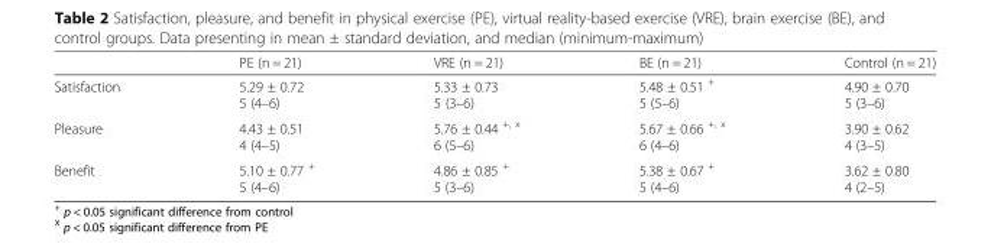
<table><thead><tr><td></td><td>PE (n = 21)</td><td>VRE (n = 21)</td><td>BE (n = 21)</td><td>Control (n = 21)</td></tr></thead><tbody><tr><td>Satisfaction</td><td>5.29 ± 0.72 5 (4–6)</td><td>5.33 ± 0.73 5 (3–6)</td><td>5.48 ± 0.51 <sup>+</sup> 5 (5–6)</td><td>4.90 ± 0.70 5 (3–6)</td></tr><tr><td>Pleasure</td><td>4.43 ± 0.51 4 (4–5)</td><td>5.76 ± 0.44 <sup>+, x</sup> 6 (5–6)</td><td>5.67 ± 0.66 <sup>+, x</sup> 6 (4–6)</td><td>3.90 ± 0.62 4 (3–5)</td></tr><tr><td>Benefit</td><td>5.10 ± 0.77 <sup>+</sup> 5 (4–6)</td><td>4.86 ± 0.85 <sup>+</sup> 5 (3–6)</td><td>5.38 ± 0.67 <sup>+</sup> 5 (4–6)</td><td>3.62 ± 0.80 4 (2–5)</td></tr></tbody></table>